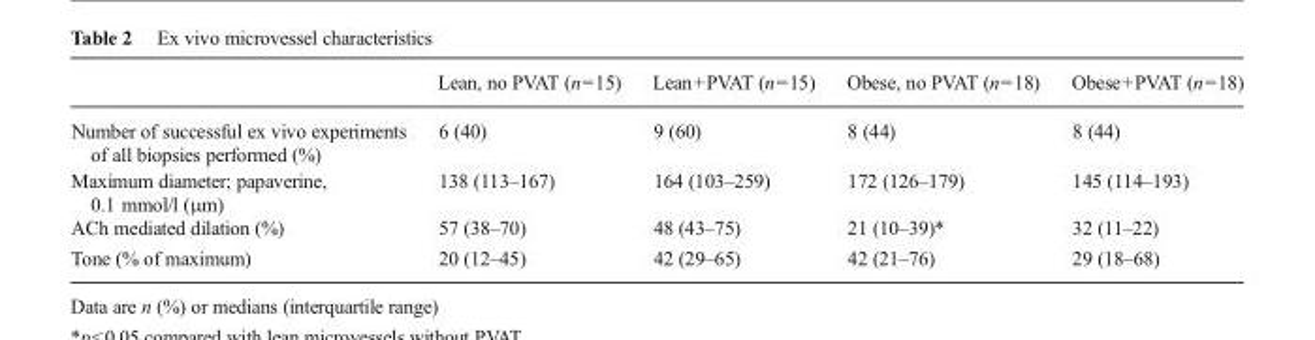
<table><thead><tr><td></td><td>Lean, no PVAT (n=15)</td><td>Lean+PVAT (n=15)</td><td>Obese, no PVAT (n=18)</td><td>Obese+PVAT (n=18)</td></tr></thead><tbody><tr><td>Number of successful ex vivo experiments of all biopsies performed (%)</td><td>6 (40)</td><td>9 (60)</td><td>8 (44)</td><td>8 (44)</td></tr><tr><td>Maximum diameter; papaverine, 0.1 mmol/l (μm)</td><td>138 (113–167)</td><td>164 (103–259)</td><td>172 (126–179)</td><td>145 (114–193)</td></tr><tr><td>ACh mediated dilation (%)</td><td>57 (38–70)</td><td>48 (43–75)</td><td>21 (10–39)*</td><td>32 (11–22)</td></tr><tr><td>Tone (% of maximum)</td><td>20 (12–45)</td><td>42 (29–65)</td><td>42 (21–76)</td><td>29 (18–68)</td></tr></tbody></table>